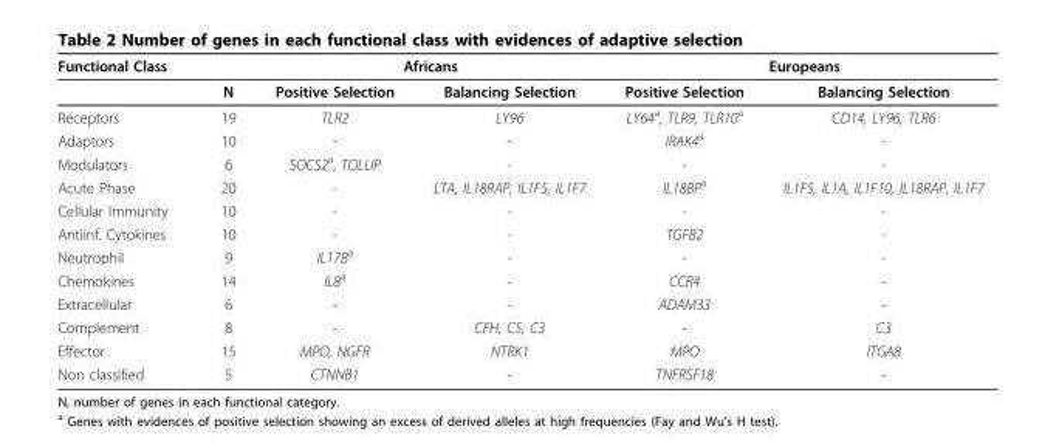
<table><thead><tr><td rowspan="2">Functional Class</td><td rowspan="2">N</td><td colspan="2">Africans</td><td colspan="2">Europeans</td></tr><tr><td>Positive Selection</td><td>Balancing Selection</td><td>Positive Selection</td><td>Balancing Selection</td></tr></thead><tbody><tr><td>Receptors</td><td>19</td><td>TLR2</td><td>LY96</td><td>LY64<sup>a</sup>, TLR9, TLR10<sup>a</sup></td><td>CD14, LY96, TLR6</td></tr><tr><td>Adaptors</td><td>10</td><td>-</td><td>-</td><td>IRAK4<sup>a</sup></td><td>-</td></tr><tr><td>Modulators</td><td>6</td><td>SOCS2<sup>a</sup>, TOLLIP</td><td>-</td><td>-</td><td>-</td></tr><tr><td>Acute Phase</td><td>20</td><td>-</td><td>LTA, IL18RAP, IL1F5, IL1F7</td><td>IL18BP<sup>a</sup></td><td>IL1F5, IL1A, IL1F10, IL18RAP, IL1F7</td></tr><tr><td>Cellular Immunity</td><td>10</td><td>-</td><td>-</td><td>-</td><td>-</td></tr><tr><td>Antiinf. Cytokines</td><td>10</td><td>-</td><td>-</td><td>TGFB2</td><td>-</td></tr><tr><td>Neutrophil</td><td>9</td><td>IL17B<sup>a</sup></td><td>-</td><td>-</td><td>-</td></tr><tr><td>Chemokines</td><td>14</td><td>IL8<sup>a</sup></td><td>-</td><td>CCR4</td><td>-</td></tr><tr><td>Extracellular</td><td>6</td><td>-</td><td>-</td><td>ADAM33</td><td>-</td></tr><tr><td>Complement</td><td>8</td><td>-</td><td>CFH, C5, C3</td><td>-</td><td>C3</td></tr><tr><td>Effector</td><td>15</td><td>MPO, NGFR</td><td>NTRK1</td><td>MPO</td><td>ITGA8</td></tr><tr><td>Non classified</td><td>5</td><td>CTNNB1</td><td>-</td><td>TNFRSF18</td><td>-</td></tr></tbody></table>